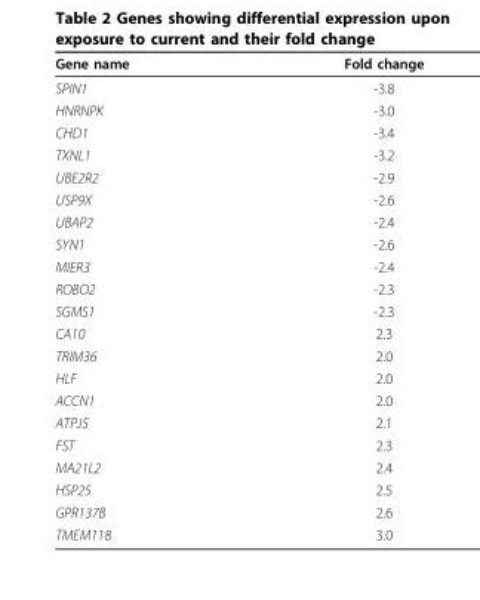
<table><thead><tr><td>Gene name</td><td>Fold change</td></tr></thead><tbody><tr><td>SPIN1</td><td>-3.8</td></tr><tr><td>HNRNPK</td><td>-3.0</td></tr><tr><td>CHD1</td><td>-3.4</td></tr><tr><td>TXNL1</td><td>-3.2</td></tr><tr><td>UBE2R2</td><td>-2.9</td></tr><tr><td>USP9X</td><td>-2.6</td></tr><tr><td>UBAP2</td><td>-2.4</td></tr><tr><td>SYN1</td><td>-2.6</td></tr><tr><td>MIER3</td><td>-2.4</td></tr><tr><td>ROBO2</td><td>-2.3</td></tr><tr><td>SGMS1</td><td>-2.3</td></tr><tr><td>CA10</td><td>2.3</td></tr><tr><td>TRIM36</td><td>2.0</td></tr><tr><td>HLF</td><td>2.0</td></tr><tr><td>ACCN1</td><td>2.0</td></tr><tr><td>ATPJ5</td><td>2.1</td></tr><tr><td>FST</td><td>2.3</td></tr><tr><td>MA21L2</td><td>2.4</td></tr><tr><td>HSP25</td><td>2.5</td></tr><tr><td>GPR137B</td><td>2.6</td></tr><tr><td>TMEM118</td><td>3.0</td></tr></tbody></table>